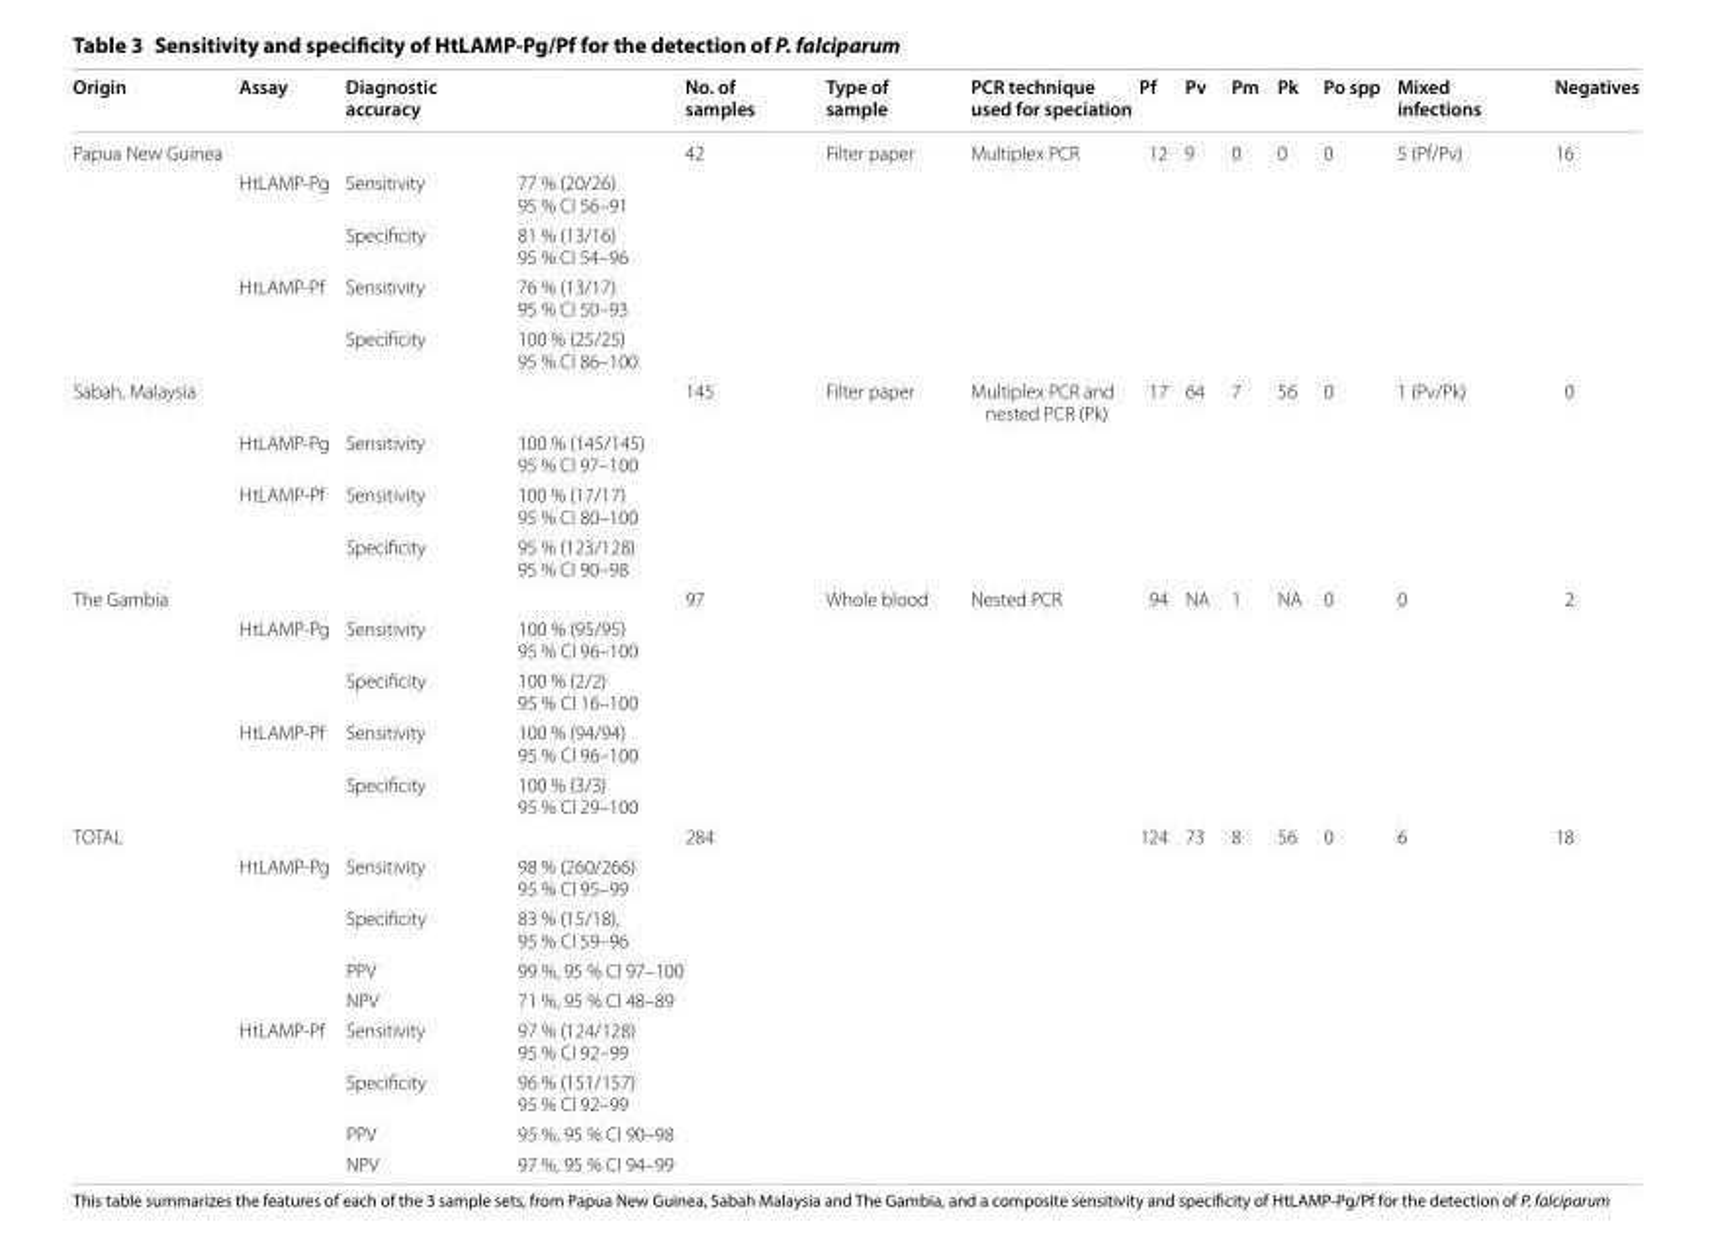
<table><thead><tr><td>Origin</td><td>Assay</td><td>Diagnostic accuracy</td><td></td><td>No. of samples</td><td>Type of sample</td><td>PCR technique used for speciation</td><td>Pf</td><td>Pv</td><td>Pm</td><td>Pk</td><td>Po spp</td><td>Mixed infections</td><td>Negatives</td></tr></thead><tbody><tr><td rowspan="5">Papua New Guinea</td><td></td><td></td><td></td><td>42</td><td>Filter paper</td><td>Multiplex PCR</td><td>12</td><td>9</td><td>0</td><td>0</td><td>0</td><td>5 (Pf/Pv)</td><td>16</td></tr><tr><td>HtLAMP-Pg</td><td>Sensitivity</td><td>77 % (20/26) 95 % CI 56–91</td><td></td><td></td><td></td><td></td><td></td><td></td><td></td><td></td><td></td><td></td></tr><tr><td></td><td>Specificity</td><td>81 % (13/16) 95 % CI 54–96</td><td></td><td></td><td></td><td></td><td></td><td></td><td></td><td></td><td></td><td></td></tr><tr><td>HtLAMP-Pf</td><td>Sensitivity</td><td>76 % (13/17) 95 % CI 50–93</td><td></td><td></td><td></td><td></td><td></td><td></td><td></td><td></td><td></td><td></td></tr><tr><td></td><td>Specificity</td><td>100 % (25/25) 95 % CI 86–100</td><td></td><td></td><td></td><td></td><td></td><td></td><td></td><td></td><td></td><td></td></tr><tr><td rowspan="4">Sabah, Malaysia</td><td></td><td></td><td></td><td>145</td><td>Filter paper</td><td>Multiplex PCR and nested PCR (Pk)</td><td>17</td><td>64</td><td>7</td><td>56</td><td>0</td><td>1 (Pv/Pk)</td><td>0</td></tr><tr><td>HtLAMP-Pg</td><td>Sensitivity</td><td>100 % (145/145) 95 % CI 97–100</td><td></td><td></td><td></td><td></td><td></td><td></td><td></td><td></td><td></td><td></td></tr><tr><td>HtLAMP-Pf</td><td>Sensitivity</td><td>100 % (17/17) 95 % CI 80–100</td><td></td><td></td><td></td><td></td><td></td><td></td><td></td><td></td><td></td><td></td></tr><tr><td></td><td>Specificity</td><td>95 % (123/128) 95 % CI 90–98</td><td></td><td></td><td></td><td></td><td></td><td></td><td></td><td></td><td></td><td></td></tr><tr><td rowspan="5">The Gambia</td><td></td><td></td><td></td><td>97</td><td>Whole blood</td><td>Nested PCR</td><td>94</td><td>NA</td><td>1</td><td>NA</td><td>0</td><td>0</td><td>2</td></tr><tr><td>HtLAMP-Pg</td><td>Sensitivity</td><td>100 % (95/95) 95 % CI 96–100</td><td></td><td></td><td></td><td></td><td></td><td></td><td></td><td></td><td></td><td></td></tr><tr><td></td><td>Specificity</td><td>100 % (2/2) 95 % CI 16–100</td><td></td><td></td><td></td><td></td><td></td><td></td><td></td><td></td><td></td><td></td></tr><tr><td>HtLAMP-Pf</td><td>Sensitivity</td><td>100 % (94/94) 95 % CI 96–100</td><td></td><td></td><td></td><td></td><td></td><td></td><td></td><td></td><td></td><td></td></tr><tr><td></td><td>Specificity</td><td>100 % (3/3) 95 % CI 29–100</td><td></td><td></td><td></td><td></td><td></td><td></td><td></td><td></td><td></td><td></td></tr><tr><td rowspan="9">TOTAL</td><td></td><td></td><td></td><td>284</td><td></td><td></td><td>124</td><td>73</td><td>8</td><td>56</td><td>0</td><td>6</td><td>18</td></tr><tr><td>HtLAMP-Pg</td><td>Sensitivity</td><td>98 % (260/266) 95 % CI 95–99</td><td></td><td></td><td></td><td></td><td></td><td></td><td></td><td></td><td></td><td></td></tr><tr><td></td><td>Specificity</td><td>83 % (15/18), 95 % CI 59–96</td><td></td><td></td><td></td><td></td><td></td><td></td><td></td><td></td><td></td><td></td></tr><tr><td></td><td>PPV</td><td>99 %, 95 % CI 97–100</td><td></td><td></td><td></td><td></td><td></td><td></td><td></td><td></td><td></td><td></td></tr><tr><td></td><td>NPV</td><td>71 %, 95 % CI 48–89</td><td></td><td></td><td></td><td></td><td></td><td></td><td></td><td></td><td></td><td></td></tr><tr><td>HtLAMP-Pf</td><td>Sensitivity</td><td>97 % (124/128) 95 % CI 92–99</td><td></td><td></td><td></td><td></td><td></td><td></td><td></td><td></td><td></td><td></td></tr><tr><td></td><td>Specificity</td><td>96 % (151/157) 95 % CI 92–99</td><td></td><td></td><td></td><td></td><td></td><td></td><td></td><td></td><td></td><td></td></tr><tr><td></td><td>PPV</td><td>95 %, 95 % CI 90–98</td><td></td><td></td><td></td><td></td><td></td><td></td><td></td><td></td><td></td><td></td></tr><tr><td></td><td>NPV</td><td>97 %, 95 % CI 94–99</td><td></td><td></td><td></td><td></td><td></td><td></td><td></td><td></td><td></td><td></td></tr></tbody></table>